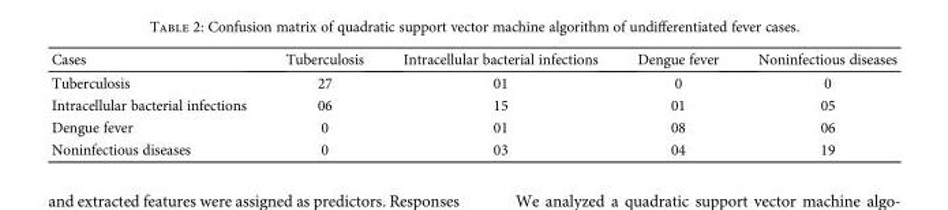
<table><thead><tr><td>Cases</td><td>Tuberculosis</td><td>Intracellular bacterial infections</td><td>Dengue fever</td><td>Noninfectious diseases</td></tr></thead><tbody><tr><td>Tuberculosis</td><td>27</td><td>01</td><td>0</td><td>0</td></tr><tr><td>Intracellular bacterial infections</td><td>06</td><td>15</td><td>01</td><td>05</td></tr><tr><td>Dengue fever</td><td>0</td><td>01</td><td>08</td><td>06</td></tr><tr><td>Noninfectious diseases</td><td>0</td><td>03</td><td>04</td><td>19</td></tr></tbody></table>